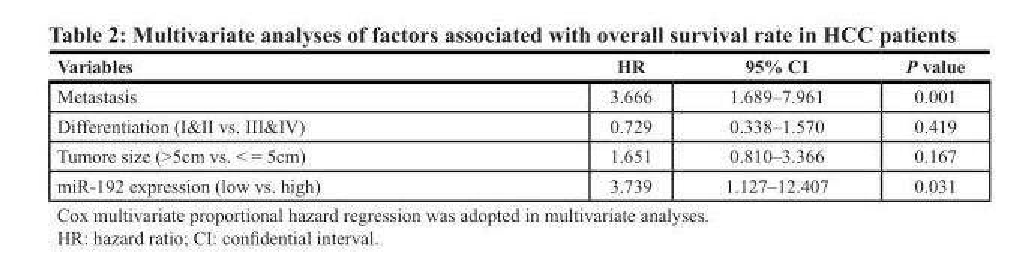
<table><thead><tr><td>Variables</td><td>HR</td><td>95% CI</td><td>P value</td></tr></thead><tbody><tr><td>Metastasis</td><td>3.666</td><td>1.689–7.961</td><td>0.001</td></tr><tr><td>Differentiation (I&amp;II vs. III&amp;IV)</td><td>0.729</td><td>0.338–1.570</td><td>0.419</td></tr><tr><td>Tumore size (&gt;5cm vs. &lt; = 5cm)</td><td>1.651</td><td>0.810–3.366</td><td>0.167</td></tr><tr><td>miR-192 expression (low vs. high)</td><td>3.739</td><td>1.127–12.407</td><td>0.031</td></tr></tbody></table>